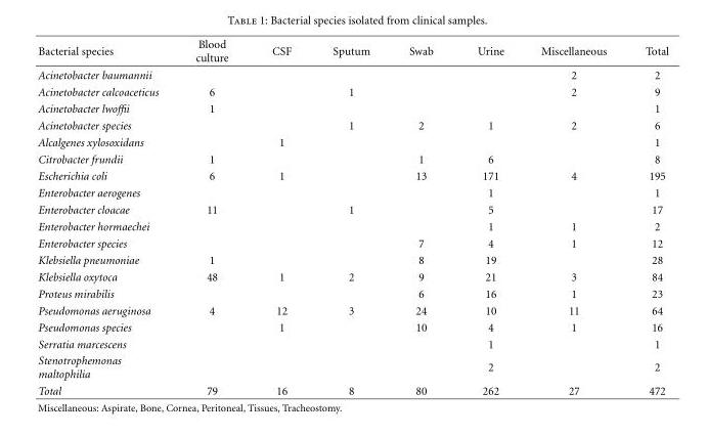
<table><thead><tr><td>Bacterial species</td><td>Blood culture</td><td>CSF</td><td>Sputum</td><td>Swab</td><td>Urine</td><td>Miscellaneous</td><td>Total</td></tr></thead><tbody><tr><td>Acinetobacter baumannii</td><td></td><td></td><td></td><td></td><td></td><td>2</td><td>2</td></tr><tr><td>Acinetobacter calcoaceticus</td><td>6</td><td></td><td>1</td><td></td><td></td><td>2</td><td>9</td></tr><tr><td>Acinetobacter lwoffii</td><td>1</td><td></td><td></td><td></td><td></td><td></td><td>1</td></tr><tr><td>Acinetobacter species</td><td></td><td></td><td>1</td><td>2</td><td>1</td><td>2</td><td>6</td></tr><tr><td>Alcalgenes xylosoxidans</td><td></td><td>1</td><td></td><td></td><td></td><td></td><td>1</td></tr><tr><td>Citrobacter frundii</td><td>1</td><td></td><td></td><td>1</td><td>6</td><td></td><td>8</td></tr><tr><td>Escherichia coli</td><td>6</td><td>1</td><td></td><td>13</td><td>171</td><td>4</td><td>195</td></tr><tr><td>Enterobacter aerogenes</td><td></td><td></td><td></td><td></td><td>1</td><td></td><td>1</td></tr><tr><td>Enterobacter cloacae</td><td>11</td><td></td><td>1</td><td></td><td>5</td><td></td><td>17</td></tr><tr><td>Enterobacter hormaechei</td><td></td><td></td><td></td><td></td><td>1</td><td>1</td><td>2</td></tr><tr><td>Enterobacter species</td><td></td><td></td><td></td><td>7</td><td>4</td><td>1</td><td>12</td></tr><tr><td>Klebsiella pneumoniae</td><td>1</td><td></td><td></td><td>8</td><td>19</td><td></td><td>28</td></tr><tr><td>Klebsiella oxytoca</td><td>48</td><td>1</td><td>2</td><td>9</td><td>21</td><td>3</td><td>84</td></tr><tr><td>Proteus mirabilis</td><td></td><td></td><td></td><td>6</td><td>16</td><td>1</td><td>23</td></tr><tr><td>Pseudomonas aeruginosa</td><td>4</td><td>12</td><td>3</td><td>24</td><td>10</td><td>11</td><td>64</td></tr><tr><td>Pseudomonas species</td><td></td><td>1</td><td></td><td>10</td><td>4</td><td>1</td><td>16</td></tr><tr><td>Serratia marcescens</td><td></td><td></td><td></td><td></td><td>1</td><td></td><td>1</td></tr><tr><td>Stenotrophemonas maltophilia</td><td></td><td></td><td></td><td></td><td>2</td><td></td><td>2</td></tr><tr><td>Total</td><td>79</td><td>16</td><td>8</td><td>80</td><td>262</td><td>27</td><td>472</td></tr></tbody></table>